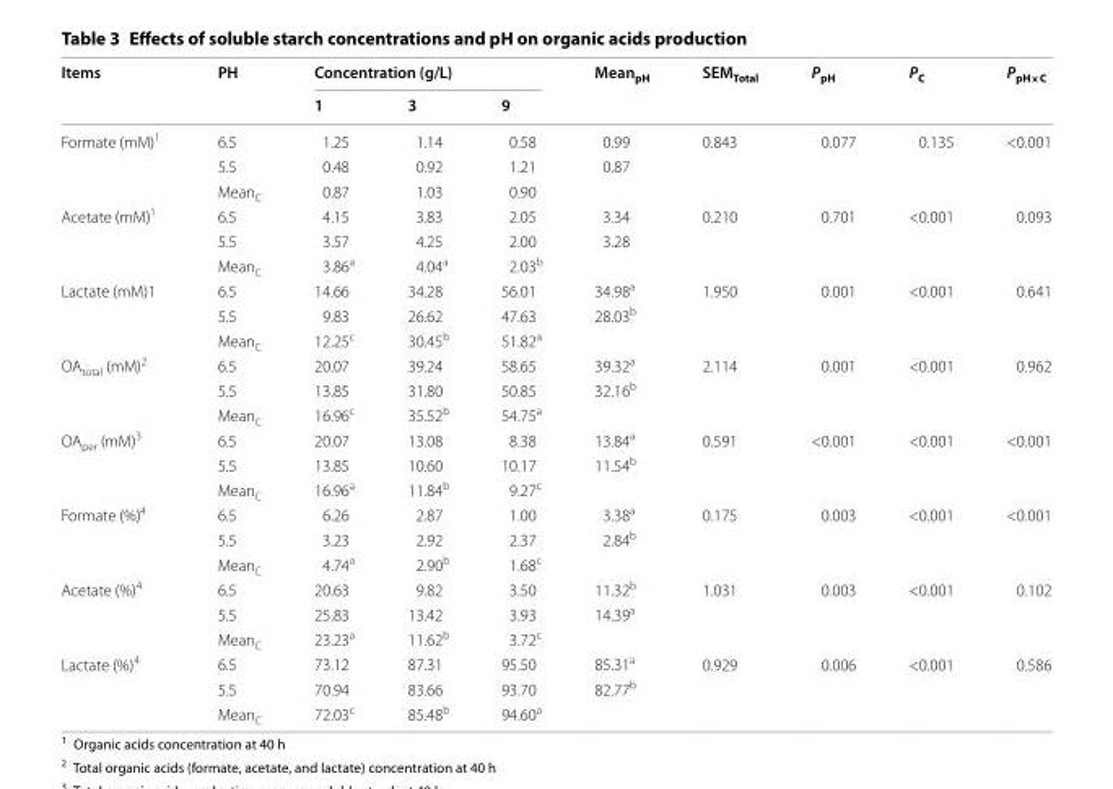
<table><thead><tr><td rowspan="2">Items</td><td rowspan="2">PH</td><td colspan="3">Concentration (g/L)</td><td rowspan="2">Mean<sub>pH</sub></td><td rowspan="2">SEM<sub>Total</sub></td><td rowspan="2">P<sub>pH</sub></td><td rowspan="2">P<sub>C</sub></td><td rowspan="2">P<sub>pH×C</sub></td></tr><tr><td>1</td><td>3</td><td>9</td></tr></thead><tbody><tr><td rowspan="3">Formate (mM)<sup>1</sup></td><td>6.5</td><td>1.25</td><td>1.14</td><td>0.58</td><td>0.99</td><td rowspan="3">0.843</td><td rowspan="3">0.077</td><td rowspan="3">0.135</td><td rowspan="3">&lt;0.001</td></tr><tr><td>5.5</td><td>0.48</td><td>0.92</td><td>1.21</td><td>0.87</td></tr><tr><td>Mean<sub>C</sub></td><td>0.87</td><td>1.03</td><td>0.90</td><td></td></tr><tr><td rowspan="3">Acetate (mM)<sup>1</sup></td><td>6.5</td><td>4.15</td><td>3.83</td><td>2.05</td><td>3.34</td><td rowspan="3">0.210</td><td rowspan="3">0.701</td><td rowspan="3">&lt;0.001</td><td rowspan="3">0.093</td></tr><tr><td>5.5</td><td>3.57</td><td>4.25</td><td>2.00</td><td>3.28</td></tr><tr><td>Mean<sub>C</sub></td><td>3.86<sup>a</sup></td><td>4.04<sup>a</sup></td><td>2.03<sup>b</sup></td><td></td></tr><tr><td rowspan="3">Lactate (mM)1</td><td>6.5</td><td>14.66</td><td>34.28</td><td>56.01</td><td>34.98<sup>a</sup></td><td rowspan="3">1.950</td><td rowspan="3">0.001</td><td rowspan="3">&lt;0.001</td><td rowspan="3">0.641</td></tr><tr><td>5.5</td><td>9.83</td><td>26.62</td><td>47.63</td><td>28.03<sup>b</sup></td></tr><tr><td>Mean<sub>C</sub></td><td>12.25<sup>c</sup></td><td>30.45<sup>b</sup></td><td>51.82<sup>a</sup></td><td></td></tr><tr><td rowspan="3">OA<sub>total</sub> (mM)<sup>2</sup></td><td>6.5</td><td>20.07</td><td>39.24</td><td>58.65</td><td>39.32<sup>a</sup></td><td rowspan="3">2.114</td><td rowspan="3">0.001</td><td rowspan="3">&lt;0.001</td><td rowspan="3">0.962</td></tr><tr><td>5.5</td><td>13.85</td><td>31.80</td><td>50.85</td><td>32.16<sup>b</sup></td></tr><tr><td>Mean<sub>C</sub></td><td>16.96<sup>c</sup></td><td>35.52<sup>b</sup></td><td>54.75<sup>a</sup></td><td></td></tr><tr><td rowspan="3">OA<sub>per</sub> (mM)<sup>3</sup></td><td>6.5</td><td>20.07</td><td>13.08</td><td>8.38</td><td>13.84<sup>a</sup></td><td rowspan="3">0.591</td><td rowspan="3">&lt;0.001</td><td rowspan="3">&lt;0.001</td><td rowspan="3">&lt;0.001</td></tr><tr><td>5.5</td><td>13.85</td><td>10.60</td><td>10.17</td><td>11.54<sup>b</sup></td></tr><tr><td>Mean<sub>C</sub></td><td>16.96<sup>a</sup></td><td>11.84<sup>b</sup></td><td>9.27<sup>c</sup></td><td></td></tr><tr><td rowspan="3">Formate (%)<sup>4</sup></td><td>6.5</td><td>6.26</td><td>2.87</td><td>1.00</td><td>3.38<sup>a</sup></td><td rowspan="3">0.175</td><td rowspan="3">0.003</td><td rowspan="3">&lt;0.001</td><td rowspan="3">&lt;0.001</td></tr><tr><td>5.5</td><td>3.23</td><td>2.92</td><td>2.37</td><td>2.84<sup>b</sup></td></tr><tr><td>Mean<sub>C</sub></td><td>4.74<sup>a</sup></td><td>2.90<sup>b</sup></td><td>1.68<sup>c</sup></td><td></td></tr><tr><td rowspan="3">Acetate (%)<sup>4</sup></td><td>6.5</td><td>20.63</td><td>9.82</td><td>3.50</td><td>11.32<sup>b</sup></td><td rowspan="3">1.031</td><td rowspan="3">0.003</td><td rowspan="3">&lt;0.001</td><td rowspan="3">0.102</td></tr><tr><td>5.5</td><td>25.83</td><td>13.42</td><td>3.93</td><td>14.39<sup>a</sup></td></tr><tr><td>Mean<sub>C</sub></td><td>23.23<sup>a</sup></td><td>11.62<sup>b</sup></td><td>3.72<sup>c</sup></td><td></td></tr><tr><td rowspan="3">Lactate (%)<sup>4</sup></td><td>6.5</td><td>73.12</td><td>87.31</td><td>95.50</td><td>85.31<sup>a</sup></td><td rowspan="3">0.929</td><td rowspan="3">0.006</td><td rowspan="3">&lt;0.001</td><td rowspan="3">0.586</td></tr><tr><td>5.5</td><td>70.94</td><td>83.66</td><td>93.70</td><td>82.77<sup>b</sup></td></tr><tr><td>Mean<sub>C</sub></td><td>72.03<sup>c</sup></td><td>85.48<sup>b</sup></td><td>94.60<sup>a</sup></td><td></td></tr></tbody></table>